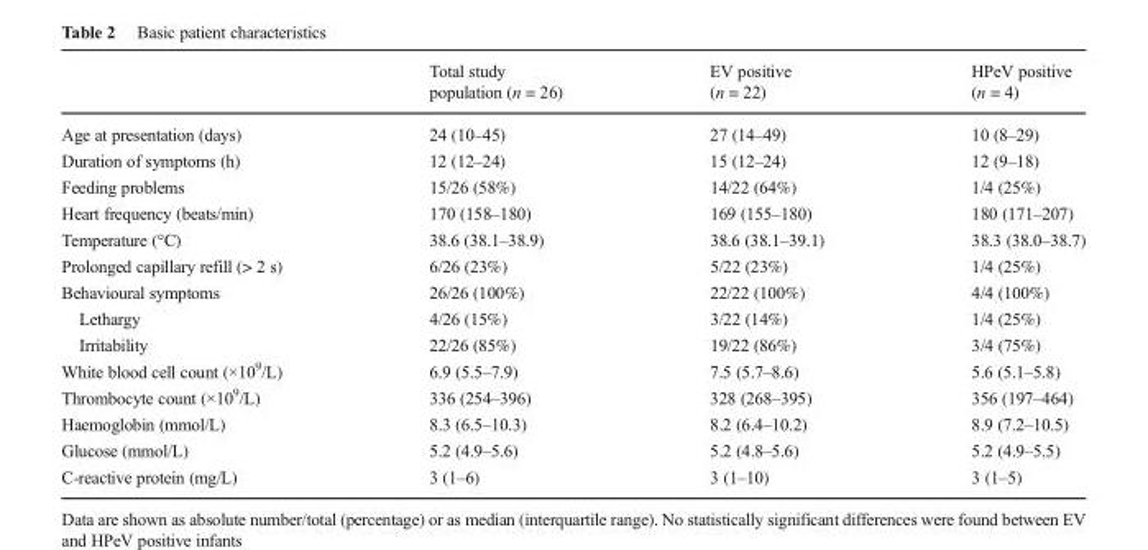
<table><thead><tr><td></td><td>Total study population (n = 26)</td><td>EV positive (n = 22)</td><td>HPeV positive (n = 4)</td></tr></thead><tbody><tr><td>Age at presentation (days)</td><td>24 (10–45)</td><td>27 (14–49)</td><td>10 (8–29)</td></tr><tr><td>Duration of symptoms (h)</td><td>12 (12–24)</td><td>15 (12–24)</td><td>12 (9–18)</td></tr><tr><td>Feeding problems</td><td>15/26 (58%)</td><td>14/22 (64%)</td><td>1/4 (25%)</td></tr><tr><td>Heart frequency (beats/min)</td><td>170 (158–180)</td><td>169 (155–180)</td><td>180 (171–207)</td></tr><tr><td>Temperature (°C)</td><td>38.6 (38.1–38.9)</td><td>38.6 (38.1–39.1)</td><td>38.3 (38.0–38.7)</td></tr><tr><td>Prolonged capillary refill (&gt; 2 s)</td><td>6/26 (23%)</td><td>5/22 (23%)</td><td>1/4 (25%)</td></tr><tr><td>Behavioural symptoms</td><td>26/26 (100%)</td><td>22/22 (100%)</td><td>4/4 (100%)</td></tr><tr><td>Lethargy</td><td>4/26 (15%)</td><td>3/22 (14%)</td><td>1/4 (25%)</td></tr><tr><td>Irritability</td><td>22/26 (85%)</td><td>19/22 (86%)</td><td>3/4 (75%)</td></tr><tr><td>White blood cell count (×10<sup>9</sup>/L)</td><td>6.9 (5.5–7.9)</td><td>7.5 (5.7–8.6)</td><td>5.6 (5.1–5.8)</td></tr><tr><td>Thrombocyte count (×10<sup>9</sup>/L)</td><td>336 (254–396)</td><td>328 (268–395)</td><td>356 (197–464)</td></tr><tr><td>Haemoglobin (mmol/L)</td><td>8.3 (6.5–10.3)</td><td>8.2 (6.4–10.2)</td><td>8.9 (7.2–10.5)</td></tr><tr><td>Glucose (mmol/L)</td><td>5.2 (4.9–5.6)</td><td>5.2 (4.8–5.6)</td><td>5.2 (4.9–5.5)</td></tr><tr><td>C-reactive protein (mg/L)</td><td>3 (1–6)</td><td>3 (1–10)</td><td>3 (1–5)</td></tr></tbody></table>